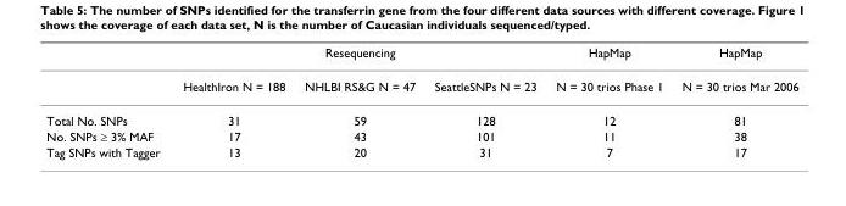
<table><thead><tr><td rowspan="2"></td><td colspan="3">Resequencing</td><td rowspan="2">HapMap N = 30 trios Phase 1</td><td rowspan="2">HapMap N = 30 trios Mar 2006</td></tr><tr><td>HealthIron N = 188</td><td>NHLBI RS&amp;G N = 47</td><td>SeattleSNPs N = 23</td></tr></thead><tbody><tr><td>Total No. SNPs</td><td>31</td><td>59</td><td>128</td><td>12</td><td>81</td></tr><tr><td>No. SNPs ≥ 3% MAF</td><td>17</td><td>43</td><td>101</td><td>11</td><td>38</td></tr><tr><td>Tag SNPs with Tagger</td><td>13</td><td>20</td><td>31</td><td>7</td><td>17</td></tr></tbody></table>